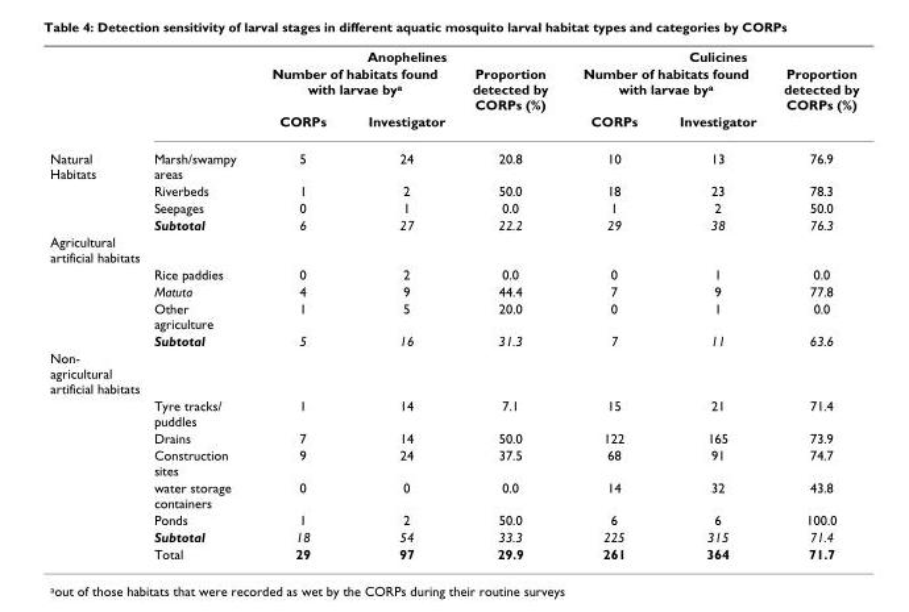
<table><thead><tr><td rowspan="3"></td><td rowspan="3"></td><td colspan="3">Anophelines</td><td colspan="3">Culicines</td></tr><tr><td colspan="2">Number of habitats found with larvae by<sup>a</sup></td><td rowspan="2">Proportion detected by CORPs (%)</td><td colspan="2">Number of habitats found with larvae by<sup>a</sup></td><td rowspan="2">Proportion detected by CORPs (%)</td></tr><tr><td>CORPs</td><td>Investigator</td><td>CORPs</td><td>Investigator</td></tr></thead><tbody><tr><td rowspan="4">Natural Habitats</td><td>Marsh/swampy areas</td><td>5</td><td>24</td><td>20.8</td><td>10</td><td>13</td><td>76.9</td></tr><tr><td>Riverbeds</td><td>1</td><td>2</td><td>50.0</td><td>18</td><td>23</td><td>78.3</td></tr><tr><td>Seepages</td><td>0</td><td>1</td><td>0.0</td><td>1</td><td>2</td><td>50.0</td></tr><tr><td>Subtotal</td><td>6</td><td>27</td><td>22.2</td><td>29</td><td>38</td><td>76.3</td></tr><tr><td colspan="8">Agricultural artificial habitats</td></tr><tr><td></td><td>Rice paddies</td><td>0</td><td>2</td><td>0.0</td><td>0</td><td>1</td><td>0.0</td></tr><tr><td></td><td>Matuta</td><td>4</td><td>9</td><td>44.4</td><td>7</td><td>9</td><td>77.8</td></tr><tr><td></td><td>Other agriculture</td><td>1</td><td>5</td><td>20.0</td><td>0</td><td>1</td><td>0.0</td></tr><tr><td></td><td>Subtotal</td><td>5</td><td>16</td><td>31.3</td><td>7</td><td>11</td><td>63.6</td></tr><tr><td colspan="8">Non- agricultural artificial habitats</td></tr><tr><td></td><td>Tyre tracks/ puddles</td><td>1</td><td>14</td><td>7.1</td><td>15</td><td>21</td><td>71.4</td></tr><tr><td></td><td>Drains</td><td>7</td><td>14</td><td>50.0</td><td>122</td><td>165</td><td>73.9</td></tr><tr><td></td><td>Construction sites</td><td>9</td><td>24</td><td>37.5</td><td>68</td><td>91</td><td>74.7</td></tr><tr><td></td><td>water storage containers</td><td>0</td><td>0</td><td>0.0</td><td>14</td><td>32</td><td>43.8</td></tr><tr><td></td><td>Ponds</td><td>1</td><td>2</td><td>50.0</td><td>6</td><td>6</td><td>100.0</td></tr><tr><td></td><td>Subtotal</td><td>18</td><td>54</td><td>33.3</td><td>225</td><td>315</td><td>71.4</td></tr><tr><td></td><td>Total</td><td>29</td><td>97</td><td>29.9</td><td>261</td><td>364</td><td>71.7</td></tr></tbody></table>